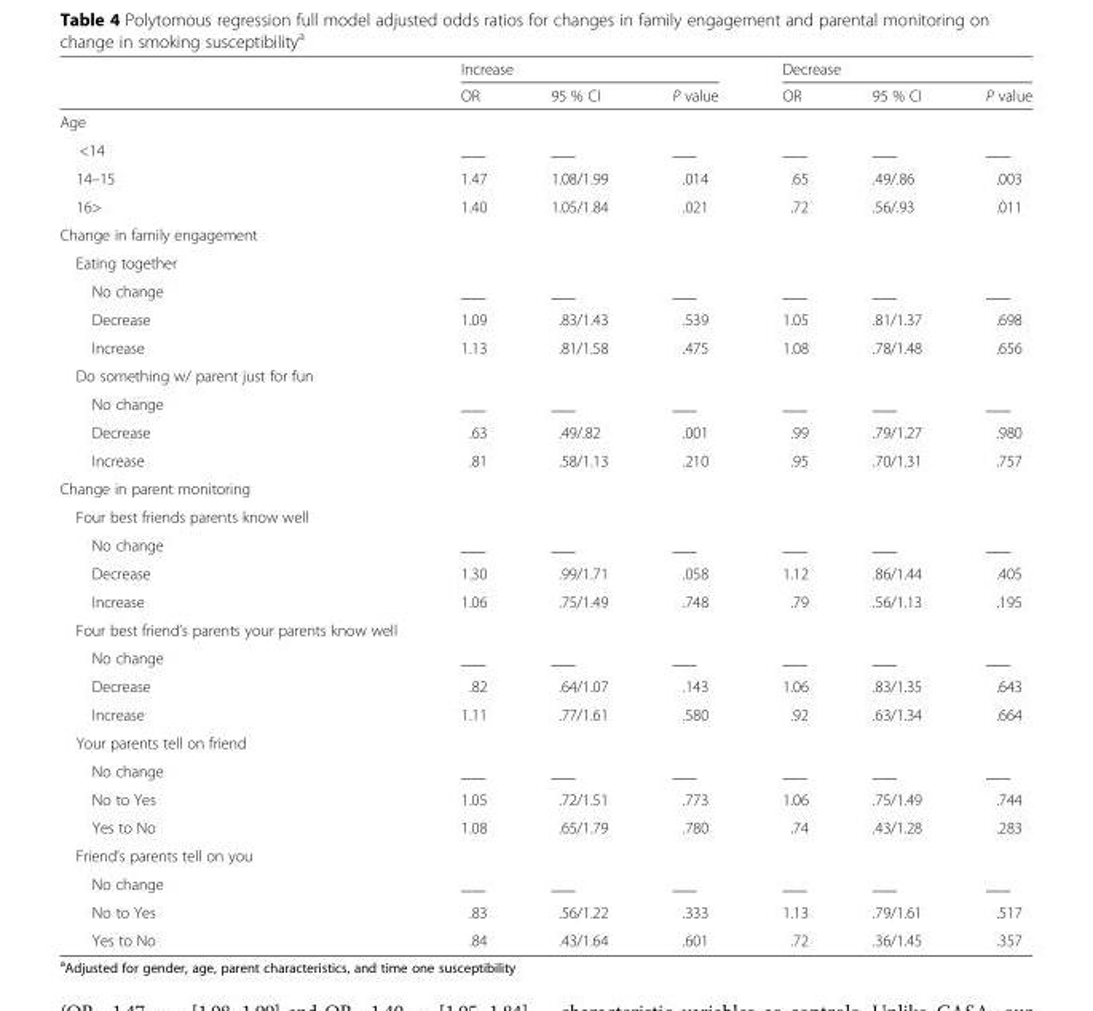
<table><thead><tr><td rowspan="2"></td><td colspan="3">Increase</td><td colspan="3">Decrease</td></tr><tr><td>OR</td><td>95 % CI</td><td>P value</td><td>OR</td><td>95 % CI</td><td>P value</td></tr></thead><tbody><tr><td colspan="7">Age</td></tr><tr><td>&lt;14</td><td>___</td><td>___</td><td>___</td><td>___</td><td>___</td><td>___</td></tr><tr><td>14–15</td><td>1.47</td><td>1.08/1.99</td><td>.014</td><td>.65</td><td>.49/.86</td><td>.003</td></tr><tr><td>16&gt;</td><td>1.40</td><td>1.05/1.84</td><td>.021</td><td>.72</td><td>.56/.93</td><td>.011</td></tr><tr><td colspan="7">Change in family engagement</td></tr><tr><td colspan="7">Eating together</td></tr><tr><td>No change</td><td>___</td><td>___</td><td>___</td><td>___</td><td>___</td><td>___</td></tr><tr><td>Decrease</td><td>1.09</td><td>.83/1.43</td><td>.539</td><td>1.05</td><td>.81/1.37</td><td>.698</td></tr><tr><td>Increase</td><td>1.13</td><td>.81/1.58</td><td>.475</td><td>1.08</td><td>.78/1.48</td><td>.656</td></tr><tr><td colspan="7">Do something w/ parent just for fun</td></tr><tr><td>No change</td><td>___</td><td>___</td><td>___</td><td>___</td><td>___</td><td>___</td></tr><tr><td>Decrease</td><td>.63</td><td>.49/.82</td><td>.001</td><td>.99</td><td>.79/1.27</td><td>.980</td></tr><tr><td>Increase</td><td>.81</td><td>.58/1.13</td><td>.210</td><td>.95</td><td>.70/1.31</td><td>.757</td></tr><tr><td colspan="7">Change in parent monitoring</td></tr><tr><td colspan="7">Four best friends parents know well</td></tr><tr><td>No change</td><td>___</td><td>___</td><td>___</td><td>___</td><td>___</td><td>___</td></tr><tr><td>Decrease</td><td>1.30</td><td>.99/1.71</td><td>.058</td><td>1.12</td><td>.86/1.44</td><td>.405</td></tr><tr><td>Increase</td><td>1.06</td><td>.75/1.49</td><td>.748</td><td>.79</td><td>.56/1.13</td><td>.195</td></tr><tr><td colspan="7">Four best friend’s parents your parents know well</td></tr><tr><td>No change</td><td>___</td><td>___</td><td>___</td><td>___</td><td>___</td><td>___</td></tr><tr><td>Decrease</td><td>.82</td><td>.64/1.07</td><td>.143</td><td>1.06</td><td>.83/1.35</td><td>.643</td></tr><tr><td>Increase</td><td>1.11</td><td>.77/1.61</td><td>.580</td><td>.92</td><td>.63/1.34</td><td>.664</td></tr><tr><td colspan="7">Your parents tell on friend</td></tr><tr><td>No change</td><td>___</td><td>___</td><td>___</td><td>___</td><td>___</td><td>___</td></tr><tr><td>No to Yes</td><td>1.05</td><td>.72/1.51</td><td>.773</td><td>1.06</td><td>.75/1.49</td><td>.744</td></tr><tr><td>Yes to No</td><td>1.08</td><td>.65/1.79</td><td>.780</td><td>.74</td><td>.43/1.28</td><td>.283</td></tr><tr><td colspan="7">Friend’s parents tell on you</td></tr><tr><td>No change</td><td>___</td><td>___</td><td>___</td><td>___</td><td>___</td><td>___</td></tr><tr><td>No to Yes</td><td>.83</td><td>.56/1.22</td><td>.333</td><td>1.13</td><td>.79/1.61</td><td>.517</td></tr><tr><td>Yes to No</td><td>.84</td><td>.43/1.64</td><td>.601</td><td>.72</td><td>.36/1.45</td><td>.357</td></tr></tbody></table>